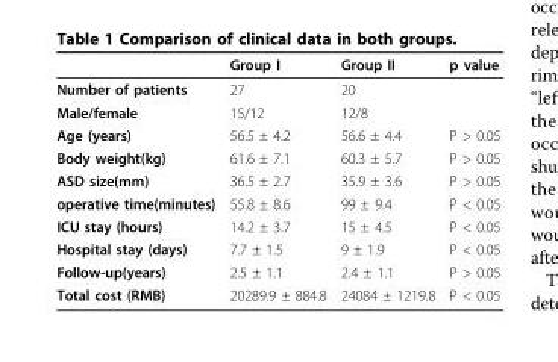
<table><thead><tr><td></td><td>Group I</td><td>Group II</td><td>p value</td></tr></thead><tbody><tr><td>Number of patients</td><td>27</td><td>20</td><td></td></tr><tr><td>Male/female</td><td>15/12</td><td>12/8</td><td></td></tr><tr><td>Age (years)</td><td>56.5 ± 4.2</td><td>56.6 ± 4.4</td><td>P &gt; 0.05</td></tr><tr><td>Body weight(kg)</td><td>61.6 ± 7.1</td><td>60.3 ± 5.7</td><td>P &gt; 0.05</td></tr><tr><td>ASD size(mm)</td><td>36.5 ± 2.7</td><td>35.9 ± 3.6</td><td>P &gt; 0.05</td></tr><tr><td>operative time(minutes)</td><td>55.8 ± 8.6</td><td>99 ± 9.4</td><td>P &lt; 0.05</td></tr><tr><td>ICU stay (hours)</td><td>14.2 ± 3.7</td><td>15 ± 4.5</td><td>P &lt; 0.05</td></tr><tr><td>Hospital stay (days)</td><td>7.7 ± 1.5</td><td>9 ± 1.9</td><td>P &lt; 0.05</td></tr><tr><td>Follow-up(years)</td><td>2.5 ± 1.1</td><td>2.4 ± 1.1</td><td>P &gt; 0.05</td></tr><tr><td>Total cost (RMB)</td><td>20289.9 ± 884.8</td><td>24084 ± 1219.8</td><td>P &lt; 0.05</td></tr></tbody></table>